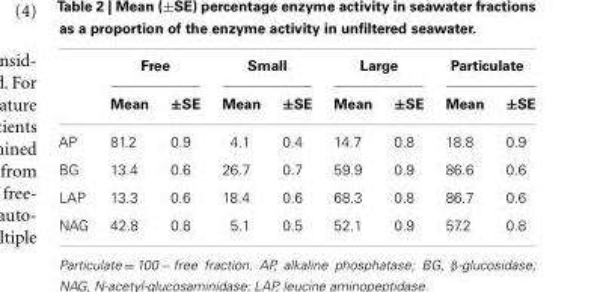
<table><thead><tr><td rowspan="2"></td><td colspan="2">Free</td><td colspan="2">Small</td><td colspan="2">Large</td><td colspan="2">Particulate</td></tr><tr><td>Mean</td><td>±SE</td><td>Mean</td><td>±SE</td><td>Mean</td><td>±SE</td><td>Mean</td><td>±SE</td></tr></thead><tbody><tr><td>AP</td><td>81.2</td><td>0.9</td><td>4.1</td><td>0.4</td><td>14.7</td><td>0.8</td><td>18.8</td><td>0.9</td></tr><tr><td>BG</td><td>13.4</td><td>0.6</td><td>26.7</td><td>0.7</td><td>59.9</td><td>0.9</td><td>86.6</td><td>0.6</td></tr><tr><td>LAP</td><td>13.3</td><td>0.6</td><td>18.4</td><td>0.6</td><td>68.3</td><td>0.8</td><td>86.7</td><td>0.6</td></tr><tr><td>NAG</td><td>42.8</td><td>0.8</td><td>5.1</td><td>0.5</td><td>52.1</td><td>0.9</td><td>57.2</td><td>0.8</td></tr></tbody></table>